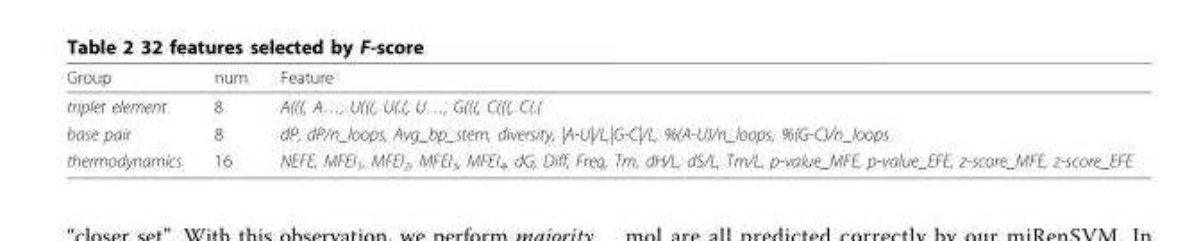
<table><thead><tr><td>Group</td><td>num</td><td>Feature</td></tr></thead><tbody><tr><td>triplet element</td><td>8</td><td>A(((, A…, U(((, U(.(, U…, G(((, C(((, C(.(</td></tr><tr><td>base pair</td><td>8</td><td>dP, dP/n_loops, Avg_bp_stem, diversity, |A-U|/L,|G-C|/L, %(A-U)/n_loops, %(G-C)/n_loops</td></tr><tr><td>thermodynamics</td><td>16</td><td>NEFE, MFEI<sub>1</sub>, MFEI<sub>2</sub>, MFEI<sub>3</sub>, MFEI<sub>4</sub>, dG, Diff, Freq, Tm, dH/L, dS/L, Tm/L, p-value_MFE, p-value_EFE, z-score_MFE, z-score_EFE</td></tr></tbody></table>